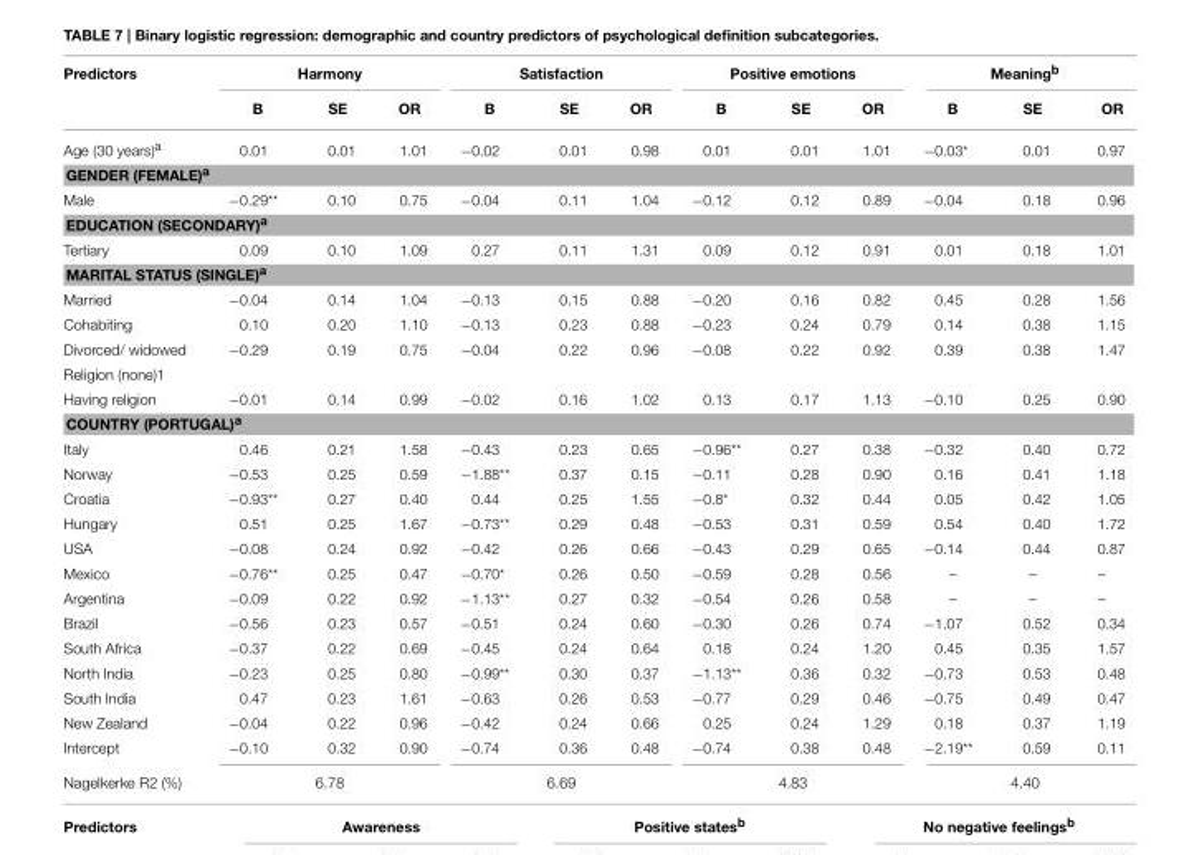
<table><thead><tr><td rowspan="2">Predictors</td><td colspan="3">Harmony</td><td colspan="3">Satisfaction</td><td colspan="3">Positive emotions</td><td colspan="3">Meaning<sup>b</sup></td></tr><tr><td>B</td><td>SE</td><td>OR</td><td>B</td><td>SE</td><td>OR</td><td>B</td><td>SE</td><td>OR</td><td>B</td><td>SE</td><td>OR</td></tr></thead><tbody><tr><td>Age (30 years)<sup>a</sup></td><td>0.01</td><td>0.01</td><td>1.01</td><td>−0.02</td><td>0.01</td><td>0.98</td><td>0.01</td><td>0.01</td><td>1.01</td><td>−0.03*</td><td>0.01</td><td>0.97</td></tr><tr><td colspan="13">GENDER (FEMALE)<sup>a</sup></td></tr><tr><td>Male</td><td>−0.29**</td><td>0.10</td><td>0.75</td><td>−0.04</td><td>0.11</td><td>1.04</td><td>−0.12</td><td>0.12</td><td>0.89</td><td>−0.04</td><td>0.18</td><td>0.96</td></tr><tr><td colspan="13">EDUCATION (SECONDARY)<sup>a</sup></td></tr><tr><td>Tertiary</td><td>0.09</td><td>0.10</td><td>1.09</td><td>0.27</td><td>0.11</td><td>1.31</td><td>0.09</td><td>0.12</td><td>0.91</td><td>0.01</td><td>0.18</td><td>1.01</td></tr><tr><td colspan="13">MARITAL STATUS (SINGLE)<sup>a</sup></td></tr><tr><td>Married</td><td>−0.04</td><td>0.14</td><td>1.04</td><td>−0.13</td><td>0.15</td><td>0.88</td><td>−0.20</td><td>0.16</td><td>0.82</td><td>0.45</td><td>0.28</td><td>1.56</td></tr><tr><td>Cohabiting</td><td>0.10</td><td>0.20</td><td>1.10</td><td>−0.13</td><td>0.23</td><td>0.88</td><td>−0.23</td><td>0.24</td><td>0.79</td><td>0.14</td><td>0.38</td><td>1.15</td></tr><tr><td>Divorced/ widowed</td><td>−0.29</td><td>0.19</td><td>0.75</td><td>−0.04</td><td>0.22</td><td>0.96</td><td>−0.08</td><td>0.22</td><td>0.92</td><td>0.39</td><td>0.38</td><td>1.47</td></tr><tr><td colspan="13">Religion (none)1</td></tr><tr><td>Having religion</td><td>−0.01</td><td>0.14</td><td>0.99</td><td>−0.02</td><td>0.16</td><td>1.02</td><td>0.13</td><td>0.17</td><td>1.13</td><td>−0.10</td><td>0.25</td><td>0.90</td></tr><tr><td colspan="13">COUNTRY (PORTUGAL)<sup>a</sup></td></tr><tr><td>Italy</td><td>0.46</td><td>0.21</td><td>1.58</td><td>−0.43</td><td>0.23</td><td>0.65</td><td>−0.96**</td><td>0.27</td><td>0.38</td><td>−0.32</td><td>0.40</td><td>0.72</td></tr><tr><td>Norway</td><td>−0.53</td><td>0.25</td><td>0.59</td><td>−1.88**</td><td>0.37</td><td>0.15</td><td>−0.11</td><td>0.28</td><td>0.90</td><td>0.16</td><td>0.41</td><td>1.18</td></tr><tr><td>Croatia</td><td>−0.93**</td><td>0.27</td><td>0.40</td><td>0.44</td><td>0.25</td><td>1.55</td><td>−0.8*</td><td>0.32</td><td>0.44</td><td>0.05</td><td>0.42</td><td>1.05</td></tr><tr><td>Hungary</td><td>0.51</td><td>0.25</td><td>1.67</td><td>−0.73**</td><td>0.29</td><td>0.48</td><td>−0.53</td><td>0.31</td><td>0.59</td><td>0.54</td><td>0.40</td><td>1.72</td></tr><tr><td>USA</td><td>−0.08</td><td>0.24</td><td>0.92</td><td>−0.42</td><td>0.26</td><td>0.66</td><td>−0.43</td><td>0.29</td><td>0.65</td><td>−0.14</td><td>0.44</td><td>0.87</td></tr><tr><td>Mexico</td><td>−0.76**</td><td>0.25</td><td>0.47</td><td>−0.70*</td><td>0.26</td><td>0.50</td><td>−0.59</td><td>0.28</td><td>0.56</td><td>–</td><td>–</td><td>–</td></tr><tr><td>Argentina</td><td>−0.09</td><td>0.22</td><td>0.92</td><td>−1.13**</td><td>0.27</td><td>0.32</td><td>−0.54</td><td>0.26</td><td>0.58</td><td>–</td><td>–</td><td>–</td></tr><tr><td>Brazil</td><td>−0.56</td><td>0.23</td><td>0.57</td><td>−0.51</td><td>0.24</td><td>0.60</td><td>−0.30</td><td>0.26</td><td>0.74</td><td>−1.07</td><td>0.52</td><td>0.34</td></tr><tr><td>South Africa</td><td>−0.37</td><td>0.22</td><td>0.69</td><td>−0.45</td><td>0.24</td><td>0.64</td><td>0.18</td><td>0.24</td><td>1.20</td><td>0.45</td><td>0.35</td><td>1.57</td></tr><tr><td>North India</td><td>−0.23</td><td>0.25</td><td>0.80</td><td>−0.99**</td><td>0.30</td><td>0.37</td><td>−1.13**</td><td>0.36</td><td>0.32</td><td>−0.73</td><td>0.53</td><td>0.48</td></tr><tr><td>South India</td><td>0.47</td><td>0.23</td><td>1.61</td><td>−0.63</td><td>0.26</td><td>0.53</td><td>−0.77</td><td>0.29</td><td>0.46</td><td>−0.75</td><td>0.49</td><td>0.47</td></tr><tr><td>New Zealand</td><td>−0.04</td><td>0.22</td><td>0.96</td><td>−0.42</td><td>0.24</td><td>0.66</td><td>0.25</td><td>0.24</td><td>1.29</td><td>0.18</td><td>0.37</td><td>1.19</td></tr><tr><td>Intercept</td><td>−0.10</td><td>0.32</td><td>0.90</td><td>−0.74</td><td>0.36</td><td>0.48</td><td>−0.74</td><td>0.38</td><td>0.48</td><td>−2.19**</td><td>0.59</td><td>0.11</td></tr><tr><td>Nagelkerke R2 (%)</td><td colspan="3">6.78</td><td colspan="3">6.69</td><td colspan="3">4.83</td><td colspan="3">4.40</td></tr></tbody></table>